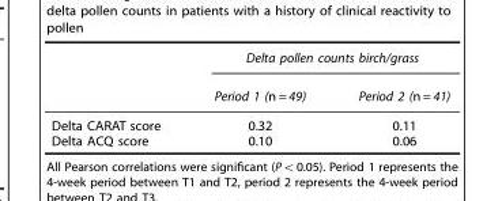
<table><thead><tr><td rowspan="2"></td><td colspan="2">Delta pollen counts birch/grass</td></tr><tr><td>Period 1 (n = 49)</td><td>Period 2 (n = 41)</td></tr></thead><tbody><tr><td>Delta CARAT score</td><td>0.32</td><td>0.11</td></tr><tr><td>Delta ACQ score</td><td>0.10</td><td>0.06</td></tr></tbody></table>